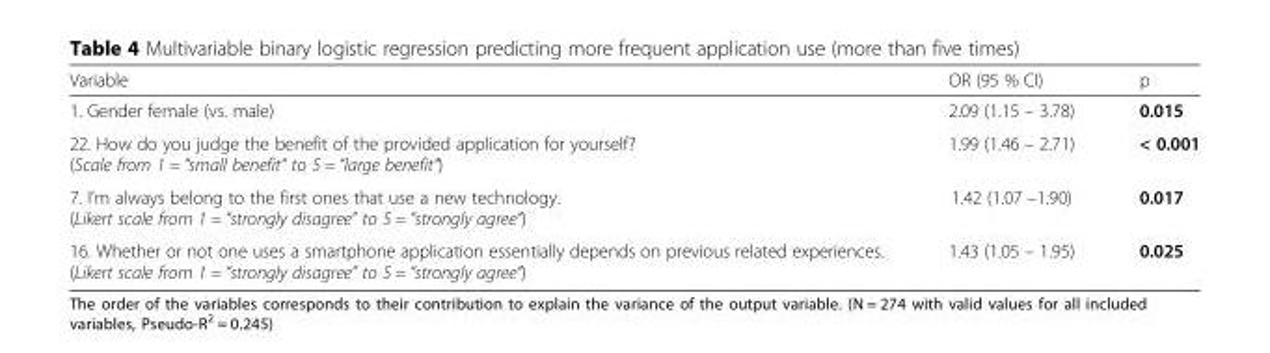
<table><thead><tr><td>Variable</td><td>OR (95 % CI)</td><td>p</td></tr></thead><tbody><tr><td>1. Gender female (vs. male)</td><td>2.09 (1.15 – 3.78)</td><td>0.015</td></tr><tr><td>22. How do you judge the benefit of the provided application for yourself? (Scale from 1 = “small benefit“ to 5 = “large benefit“)</td><td>1.99 (1.46 – 2.71)</td><td>&lt; 0.001</td></tr><tr><td>7. I’m always belong to the first ones that use a new technology. (Likert scale from 1 = “strongly disagree” to 5 = “strongly agree“)</td><td>1.42 (1.07 –1.90)</td><td>0.017</td></tr><tr><td>16. Whether or not one uses a smartphone application essentially depends on previous related experiences. (Likert scale from 1 = “strongly disagree” to 5 = “strongly agree“)</td><td>1.43 (1.05 – 1.95)</td><td>0.025</td></tr></tbody></table>